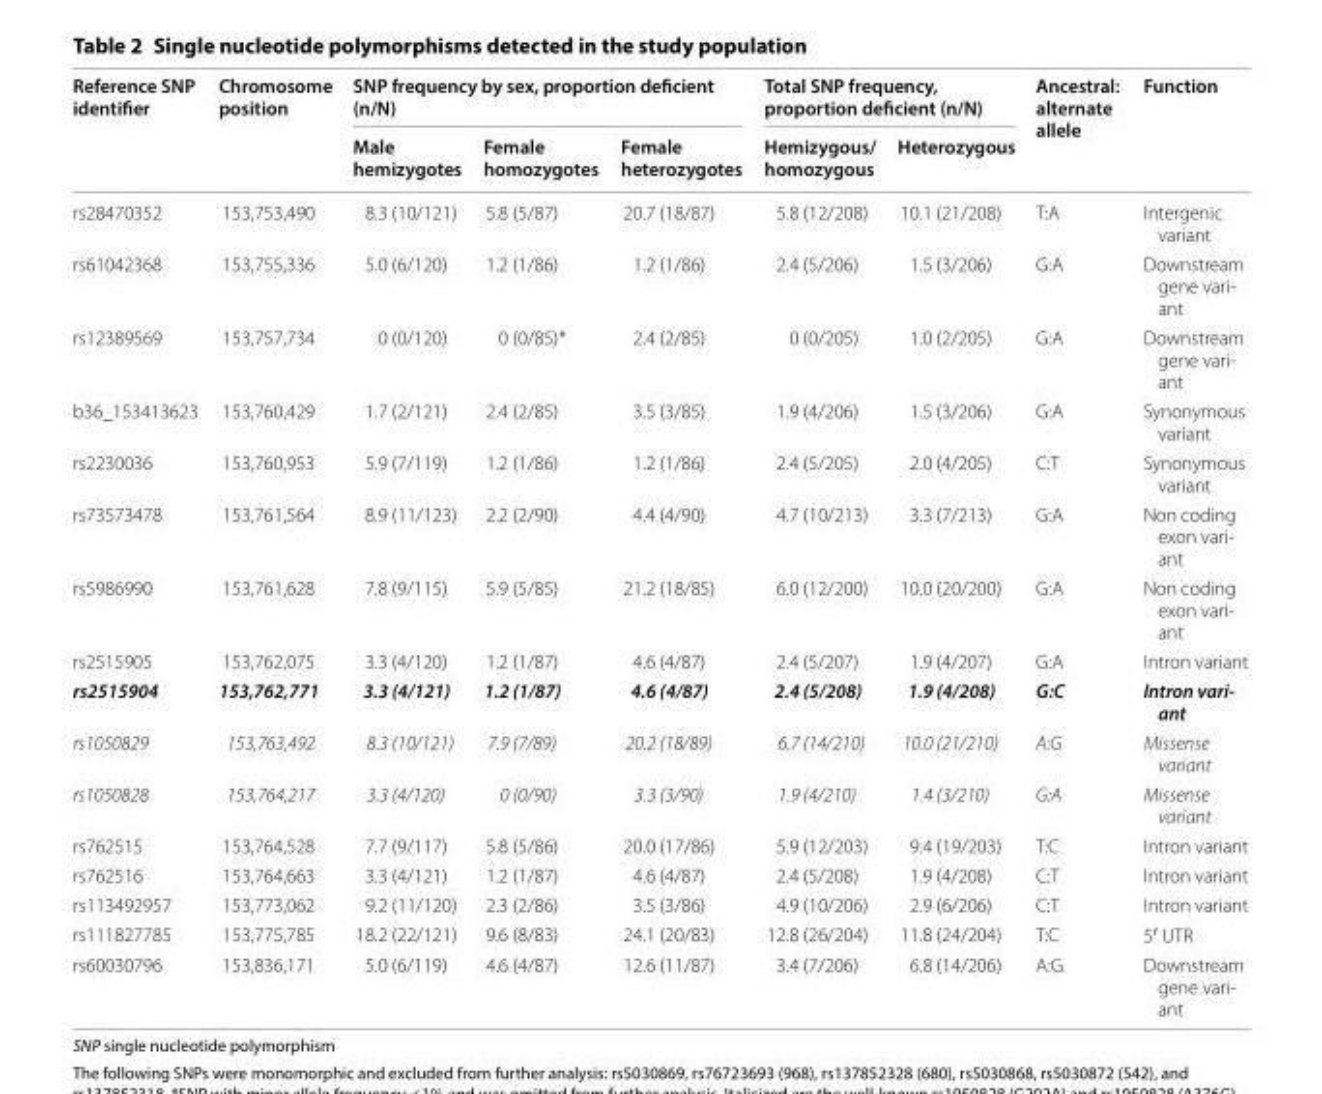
<table><thead><tr><td rowspan="2">Reference SNP identifier</td><td rowspan="2">Chromosome position</td><td colspan="3">SNP frequency by sex, proportion deficient (n/N)</td><td colspan="2">Total SNP frequency, proportion deficient (n/N)</td><td rowspan="2">Ancestral: alternate allele</td><td rowspan="2">Function</td></tr><tr><td>Male hemizygotes</td><td>Female homozygotes</td><td>Female heterozygotes</td><td>Hemizygous/ homozygous</td><td>Heterozygous</td></tr></thead><tbody><tr><td>rs28470352</td><td>153,753,490</td><td>8.3 (10/121)</td><td>5.8 (5/87)</td><td>20.7 (18/87)</td><td>5.8 (12/208)</td><td>10.1 (21/208)</td><td>T:A</td><td>Intergenic variant</td></tr><tr><td>rs61042368</td><td>153,755,336</td><td>5.0 (6/120)</td><td>1.2 (1/86)</td><td>1.2 (1/86)</td><td>2.4 (5/206)</td><td>1.5 (3/206)</td><td>G:A</td><td>Downstream gene vari- ant</td></tr><tr><td>rs12389569</td><td>153,757,734</td><td>0 (0/120)</td><td>0 (0/85)*</td><td>2.4 (2/85)</td><td>0 (0/205)</td><td>1.0 (2/205)</td><td>G:A</td><td>Downstream gene vari- ant</td></tr><tr><td>b36_153413623</td><td>153,760,429</td><td>1.7 (2/121)</td><td>2.4 (2/85)</td><td>3.5 (3/85)</td><td>1.9 (4/206)</td><td>1.5 (3/206)</td><td>G:A</td><td>Synonymous variant</td></tr><tr><td>rs2230036</td><td>153,760,953</td><td>5.9 (7/119)</td><td>1.2 (1/86)</td><td>1.2 (1/86)</td><td>2.4 (5/205)</td><td>2.0 (4/205)</td><td>C:T</td><td>Synonymous variant</td></tr><tr><td>rs73573478</td><td>153,761,564</td><td>8.9 (11/123)</td><td>2.2 (2/90)</td><td>4.4 (4/90)</td><td>4.7 (10/213)</td><td>3.3 (7/213)</td><td>G:A</td><td>Non coding exon vari- ant</td></tr><tr><td>rs5986990</td><td>153,761,628</td><td>7.8 (9/115)</td><td>5.9 (5/85)</td><td>21.2 (18/85)</td><td>6.0 (12/200)</td><td>10.0 (20/200)</td><td>G:A</td><td>Non coding exon vari- ant</td></tr><tr><td>rs2515905</td><td>153,762,075</td><td>3.3 (4/120)</td><td>1.2 (1/87)</td><td>4.6 (4/87)</td><td>2.4 (5/207)</td><td>1.9 (4/207)</td><td>G:A</td><td>Intron variant</td></tr><tr><td>rs2515904</td><td>153,762,771</td><td>3.3 (4/121)</td><td>1.2 (1/87)</td><td>4.6 (4/87)</td><td>2.4 (5/208)</td><td>1.9 (4/208)</td><td>G:C</td><td>Intron vari- ant</td></tr><tr><td>rs1050829</td><td>153,763,492</td><td>8.3 (10/121)</td><td>7.9 (7/89)</td><td>20.2 (18/89)</td><td>6.7 (14/210)</td><td>10.0 (21/210)</td><td>A:G</td><td>Missense variant</td></tr><tr><td>rs1050828</td><td>153,764,217</td><td>3.3 (4/120)</td><td>0 (0/90)</td><td>3.3 (3/90)</td><td>1.9 (4/210)</td><td>1.4 (3/210)</td><td>G:A</td><td>Missense variant</td></tr><tr><td>rs762515</td><td>153,764,528</td><td>7.7 (9/117)</td><td>5.8 (5/86)</td><td>20.0 (17/86)</td><td>5.9 (12/203)</td><td>9.4 (19/203)</td><td>T:C</td><td>Intron variant</td></tr><tr><td>rs762516</td><td>153,764,663</td><td>3.3 (4/121)</td><td>1.2 (1/87)</td><td>4.6 (4/87)</td><td>2.4 (5/208)</td><td>1.9 (4/208)</td><td>C:T</td><td>Intron variant</td></tr><tr><td>rs113492957</td><td>153,773,062</td><td>9.2 (11/120)</td><td>2.3 (2/86)</td><td>3.5 (3/86)</td><td>4.9 (10/206)</td><td>2.9 (6/206)</td><td>C:T</td><td>Intron variant</td></tr><tr><td>rs111827785</td><td>153,775,785</td><td>18.2 (22/121)</td><td>9.6 (8/83)</td><td>24.1 (20/83)</td><td>12.8 (26/204)</td><td>11.8 (24/204)</td><td>T:C</td><td>5′ UTR</td></tr><tr><td>rs60030796</td><td>153,836,171</td><td>5.0 (6/119)</td><td>4.6 (4/87)</td><td>12.6 (11/87)</td><td>3.4 (7/206)</td><td>6.8 (14/206)</td><td>A:G</td><td>Downstream gene vari- ant</td></tr></tbody></table>